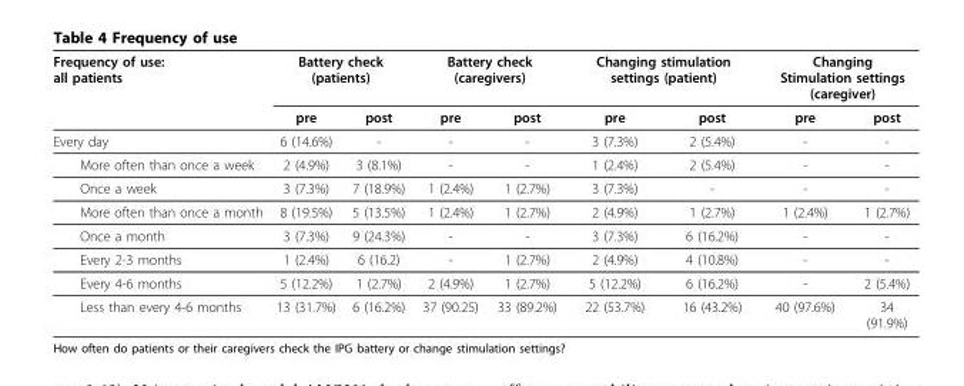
<table><thead><tr><td rowspan="2">Frequency of use: all patients</td><td colspan="2">Battery check (patients)</td><td colspan="2">Battery check (caregivers)</td><td colspan="2">Changing stimulation settings (patient)</td><td colspan="2">Changing Stimulation settings (caregiver)</td></tr><tr><td>pre</td><td>post</td><td>pre</td><td>post</td><td>pre</td><td>post</td><td>pre</td><td>post</td></tr></thead><tbody><tr><td>Every day</td><td>6 (14.6%)</td><td>-</td><td>-</td><td>-</td><td>3 (7.3%)</td><td>2 (5.4%)</td><td>-</td><td>-</td></tr><tr><td>More often than once a week</td><td>2 (4.9%)</td><td>3 (8.1%)</td><td>-</td><td>-</td><td>1 (2.4%)</td><td>2 (5.4%)</td><td>-</td><td>-</td></tr><tr><td>Once a week</td><td>3 (7.3%)</td><td>7 (18.9%)</td><td>1 (2.4%)</td><td>1 (2.7%)</td><td>3 (7.3%)</td><td>-</td><td>-</td><td>-</td></tr><tr><td>More often than once a month</td><td>8 (19.5%)</td><td>5 (13.5%)</td><td>1 (2.4%)</td><td>1 (2.7%)</td><td>2 (4.9%)</td><td>1 (2.7%)</td><td>1 (2.4%)</td><td>1 (2.7%)</td></tr><tr><td>Once a month</td><td>3 (7.3%)</td><td>9 (24.3%)</td><td>-</td><td>-</td><td>3 (7.3%)</td><td>6 (16.2%)</td><td>-</td><td>-</td></tr><tr><td>Every 2-3 months</td><td>1 (2.4%)</td><td>6 (16.2)</td><td>-</td><td>1 (2.7%)</td><td>2 (4.9%)</td><td>4 (10.8%)</td><td>-</td><td>-</td></tr><tr><td>Every 4-6 months</td><td>5 (12.2%)</td><td>1 (2.7%)</td><td>2 (4.9%)</td><td>1 (2.7%)</td><td>5 (12.2%)</td><td>6 (16.2%)</td><td>-</td><td>2 (5.4%)</td></tr><tr><td>Less than every 4-6 months</td><td>13 (31.7%)</td><td>6 (16.2%)</td><td>37 (90.25)</td><td>33 (89.2%)</td><td>22 (53.7%)</td><td>16 (43.2%)</td><td>40 (97.6%)</td><td>34 (91.9%)</td></tr></tbody></table>